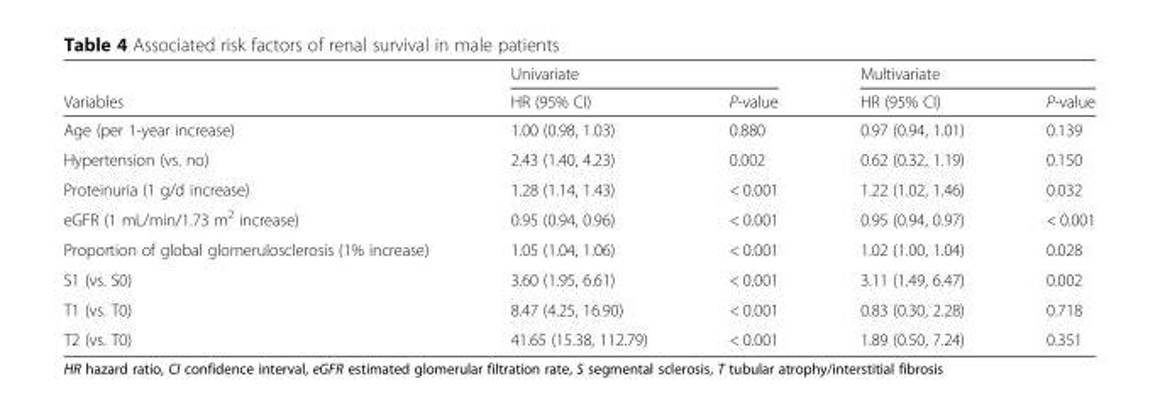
<table><thead><tr><td rowspan="2">Variables</td><td colspan="2">Univariate</td><td colspan="2">Multivariate</td></tr><tr><td>HR (95% CI)</td><td>P-value</td><td>HR (95% CI)</td><td>P-value</td></tr></thead><tbody><tr><td>Age (per 1-year increase)</td><td>1.00 (0.98, 1.03)</td><td>0.880</td><td>0.97 (0.94, 1.01)</td><td>0.139</td></tr><tr><td>Hypertension (vs. no)</td><td>2.43 (1.40, 4.23)</td><td>0.002</td><td>0.62 (0.32, 1.19)</td><td>0.150</td></tr><tr><td>Proteinuria (1 g/d increase)</td><td>1.28 (1.14, 1.43)</td><td>&lt; 0.001</td><td>1.22 (1.02, 1.46)</td><td>0.032</td></tr><tr><td>eGFR (1 mL/min/1.73 m<sup>2</sup> increase)</td><td>0.95 (0.94, 0.96)</td><td>&lt; 0.001</td><td>0.95 (0.94, 0.97)</td><td>&lt; 0.001</td></tr><tr><td>Proportion of global glomerulosclerosis (1% increase)</td><td>1.05 (1.04, 1.06)</td><td>&lt; 0.001</td><td>1.02 (1.00, 1.04)</td><td>0.028</td></tr><tr><td>S1 (vs. S0)</td><td>3.60 (1.95, 6.61)</td><td>&lt; 0.001</td><td>3.11 (1.49, 6.47)</td><td>0.002</td></tr><tr><td>T1 (vs. T0)</td><td>8.47 (4.25, 16.90)</td><td>&lt; 0.001</td><td>0.83 (0.30, 2.28)</td><td>0.718</td></tr><tr><td>T2 (vs. T0)</td><td>41.65 (15.38, 112.79)</td><td>&lt; 0.001</td><td>1.89 (0.50, 7.24)</td><td>0.351</td></tr></tbody></table>